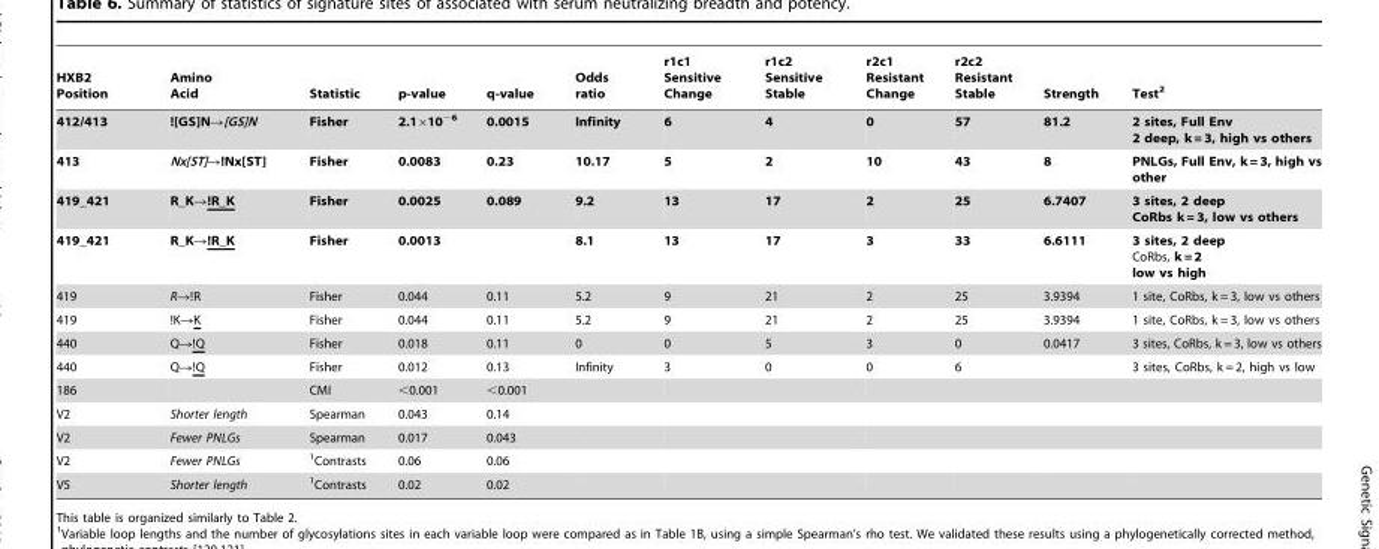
<table><thead><tr><td>HXB2 Position</td><td>Amino Acid</td><td>Statistic</td><td>p-value</td><td>q-value</td><td>Odds ratio</td><td>r1c1 Sensitive Change</td><td>r1c2 Sensitive Stable</td><td>r2c1 Resistant Change</td><td>r2c2 Resistant Stable</td><td>Strength</td><td>Test<sup>2</sup></td></tr></thead><tbody><tr><td>412/413</td><td>![GS]N→[GS]N</td><td>Fisher</td><td>2.1×10<sup>−6</sup></td><td>0.0015</td><td>Infinity</td><td>6</td><td>4</td><td>0</td><td>57</td><td>81.2</td><td>2 sites, Full Env 2 deep, k = 3, high vs others</td></tr><tr><td>413</td><td>Nx[ST]→!Nx[ST]</td><td>Fisher</td><td>0.0083</td><td>0.23</td><td>10.17</td><td>5</td><td>2</td><td>10</td><td>43</td><td>8</td><td>PNLGs, Full Env, k = 3, high vs other</td></tr><tr><td>419_421</td><td>R_K→!R_K</td><td>Fisher</td><td>0.0025</td><td>0.089</td><td>9.2</td><td>13</td><td>17</td><td>2</td><td>25</td><td>6.7407</td><td>3 sites, 2 deep CoRbs k = 3, low vs others</td></tr><tr><td>419_421</td><td>R_K→!R_K</td><td>Fisher</td><td>0.0013</td><td></td><td>8.1</td><td>13</td><td>17</td><td>3</td><td>33</td><td>6.6111</td><td>3 sites, 2 deep CoRbs, k = 2 low vs high</td></tr><tr><td>419</td><td>R→!R</td><td>Fisher</td><td>0.044</td><td>0.11</td><td>5.2</td><td>9</td><td>21</td><td>2</td><td>25</td><td>3.9394</td><td>1 site, CoRbs, k = 3, low vs others</td></tr><tr><td>419</td><td>!K→K</td><td>Fisher</td><td>0.044</td><td>0.11</td><td>5.2</td><td>9</td><td>21</td><td>2</td><td>25</td><td>3.9394</td><td>1 site, CoRbs, k = 3, low vs others</td></tr><tr><td>440</td><td>Q→!Q</td><td>Fisher</td><td>0.018</td><td>0.11</td><td>0</td><td>0</td><td>5</td><td>3</td><td>0</td><td>0.0417</td><td>3 sites, CoRbs, k = 3, low vs others</td></tr><tr><td>440</td><td>Q→!Q</td><td>Fisher</td><td>0.012</td><td>0.13</td><td>Infinity</td><td>3</td><td>0</td><td>0</td><td>6</td><td></td><td>3 sites, CoRbs, k = 2, high vs low</td></tr><tr><td>186</td><td></td><td>CMI</td><td>&lt;0.001</td><td>&lt;0.001</td><td></td><td></td><td></td><td></td><td></td><td></td><td></td></tr><tr><td>V2</td><td>Shorter length</td><td>Spearman</td><td>0.043</td><td>0.14</td><td></td><td></td><td></td><td></td><td></td><td></td><td></td></tr><tr><td>V2</td><td>Fewer PNLGs</td><td>Spearman</td><td>0.017</td><td>0.043</td><td></td><td></td><td></td><td></td><td></td><td></td><td></td></tr><tr><td>V2</td><td>Fewer PNLGs</td><td>1Contrasts</td><td>0.06</td><td>0.06</td><td></td><td></td><td></td><td></td><td></td><td></td><td></td></tr><tr><td>V5</td><td>Shorter length</td><td>1Contrasts</td><td>0.02</td><td>0.02</td><td></td><td></td><td></td><td></td><td></td><td></td><td></td></tr></tbody></table>